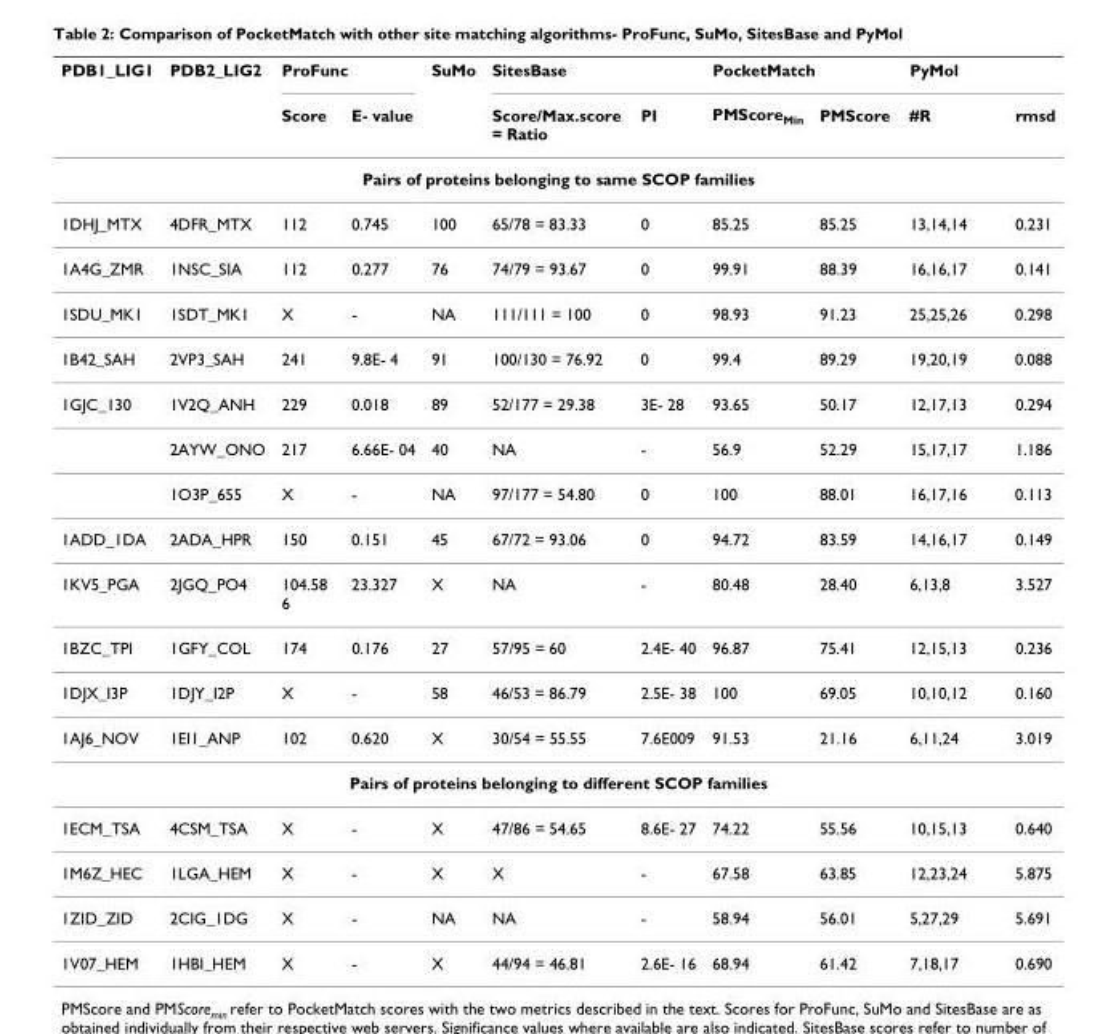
<table><thead><tr><td rowspan="2">PDB1_LIG1</td><td rowspan="2">PDB2_LIG2</td><td colspan="2">ProFunc</td><td rowspan="2">SuMo</td><td colspan="2">SitesBase</td><td colspan="2">PocketMatch</td><td colspan="2">PyMol</td></tr><tr><td>Score</td><td>E- value</td><td>Score/Max.score = Ratio</td><td>PI</td><td>PMScore<sub>Min</sub></td><td>PMScore</td><td>#R</td><td>rmsd</td></tr></thead><tbody><tr><td colspan="11">Pairs of proteins belonging to same SCOP families</td></tr><tr><td>1DHJ_MTX</td><td>4DFR_MTX</td><td>112</td><td>0.745</td><td>100</td><td>65/78 = 83.33</td><td>0</td><td>85.25</td><td>85.25</td><td>13,14,14</td><td>0.231</td></tr><tr><td>1A4G_ZMR</td><td>1NSC_SIA</td><td>112</td><td>0.277</td><td>76</td><td>74/79 = 93.67</td><td>0</td><td>99.91</td><td>88.39</td><td>16,16,17</td><td>0.141</td></tr><tr><td>1SDU_MK1</td><td>1SDT_MK1</td><td>X</td><td>-</td><td>NA</td><td>111/111 = 100</td><td>0</td><td>98.93</td><td>91.23</td><td>25,25,26</td><td>0.298</td></tr><tr><td>1B42_SAH</td><td>2VP3_SAH</td><td>241</td><td>9.8E- 4</td><td>91</td><td>100/130 = 76.92</td><td>0</td><td>99.4</td><td>89.29</td><td>19,20,19</td><td>0.088</td></tr><tr><td rowspan="3">1GJC_130</td><td>1V2Q_ANH</td><td>229</td><td>0.018</td><td>89</td><td>52/177 = 29.38</td><td>3E- 28</td><td>93.65</td><td>50.17</td><td>12,17,13</td><td>0.294</td></tr><tr><td>2AYW_ONO</td><td>217</td><td>6.66E- 04</td><td>40</td><td>NA</td><td>-</td><td>56.9</td><td>52.29</td><td>15,17,17</td><td>1.186</td></tr><tr><td>1O3P_655</td><td>X</td><td>-</td><td>NA</td><td>97/177 = 54.80</td><td>0</td><td>100</td><td>88.01</td><td>16,17,16</td><td>0.113</td></tr><tr><td>1ADD_1DA</td><td>2ADA_HPR</td><td>150</td><td>0.151</td><td>45</td><td>67/72 = 93.06</td><td>0</td><td>94.72</td><td>83.59</td><td>14,16,17</td><td>0.149</td></tr><tr><td>1KV5_PGA</td><td>2JGQ_PO4</td><td>104.58 6</td><td>23.327</td><td>X</td><td>NA</td><td>-</td><td>80.48</td><td>28.40</td><td>6,13,8</td><td>3.527</td></tr><tr><td>1BZC_TPI</td><td>1GFY_COL</td><td>174</td><td>0.176</td><td>27</td><td>57/95 = 60</td><td>2.4E- 40</td><td>96.87</td><td>75.41</td><td>12,15,13</td><td>0.236</td></tr><tr><td>1DJX_I3P</td><td>1DJY_I2P</td><td>X</td><td>-</td><td>58</td><td>46/53 = 86.79</td><td>2.5E- 38</td><td>100</td><td>69.05</td><td>10,10,12</td><td>0.160</td></tr><tr><td>1AJ6_NOV</td><td>1EI1_ANP</td><td>102</td><td>0.620</td><td>X</td><td>30/54 = 55.55</td><td>7.6E009</td><td>91.53</td><td>21.16</td><td>6,11,24</td><td>3.019</td></tr><tr><td colspan="11">Pairs of proteins belonging to different SCOP families</td></tr><tr><td>1ECM_TSA</td><td>4CSM_TSA</td><td>X</td><td>-</td><td>X</td><td>47/86 = 54.65</td><td>8.6E- 27</td><td>74.22</td><td>55.56</td><td>10,15,13</td><td>0.640</td></tr><tr><td>1M6Z_HEC</td><td>1LGA_HEM</td><td>X</td><td>-</td><td>X</td><td>X</td><td>-</td><td>67.58</td><td>63.85</td><td>12,23,24</td><td>5.875</td></tr><tr><td>1ZID_ZID</td><td>2CIG_1DG</td><td>X</td><td>-</td><td>NA</td><td>NA</td><td>-</td><td>58.94</td><td>56.01</td><td>5,27,29</td><td>5.691</td></tr><tr><td>1V07_HEM</td><td>1HBI_HEM</td><td>X</td><td>-</td><td>X</td><td>44/94 = 46.81</td><td>2.6E- 16</td><td>68.94</td><td>61.42</td><td>7,18,17</td><td>0.690</td></tr></tbody></table>